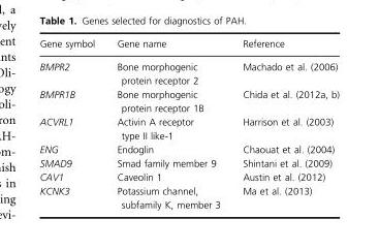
<table><thead><tr><td>Gene symbol</td><td>Gene name</td><td>Reference</td></tr></thead><tbody><tr><td>BMPR2</td><td>Bone morphogenic protein receptor 2</td><td>Machado et al. (2006)</td></tr><tr><td>BMPR1B</td><td>Bone morphogenic protein receptor 1B</td><td>Chida et al. (2012a, b)</td></tr><tr><td>ACVRL1</td><td>Activin A receptor type II like-1</td><td>Harrison et al. (2003)</td></tr><tr><td>ENG</td><td>Endoglin</td><td>Chaouat et al. (2004)</td></tr><tr><td>SMAD9</td><td>Smad family member 9</td><td>Shintani et al. (2009)</td></tr><tr><td>CAV1</td><td>Caveolin 1</td><td>Austin et al. (2012)</td></tr><tr><td>KCNK3</td><td>Potassium channel, subfamily K, member 3</td><td>Ma et al. (2013)</td></tr></tbody></table>